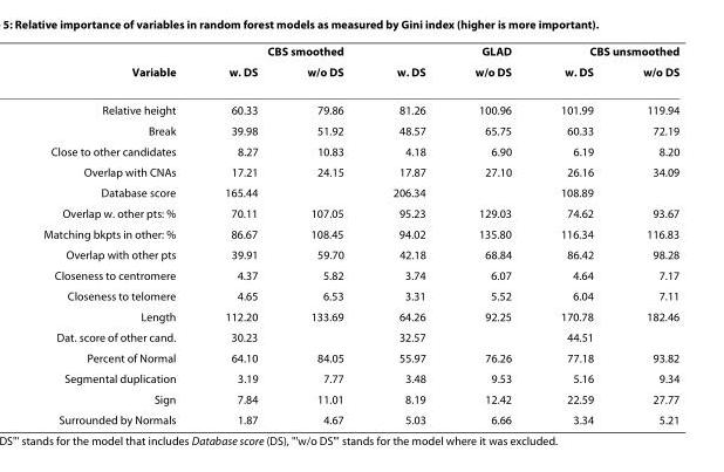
<table><thead><tr><td rowspan="2">Variable</td><td colspan="2">CBS smoothed</td><td rowspan="2">w. DS</td><td rowspan="2">GLAD w/o DS</td><td colspan="2">CBS unsmoothed</td></tr><tr><td>w. DS</td><td>w/o DS</td><td>w. DS</td><td>w/o DS</td></tr></thead><tbody><tr><td>Relative height</td><td>60.33</td><td>79.86</td><td>81.26</td><td>100.96</td><td>101.99</td><td>119.94</td></tr><tr><td>Break</td><td>39.98</td><td>51.92</td><td>48.57</td><td>65.75</td><td>60.33</td><td>72.19</td></tr><tr><td>Close to other candidates</td><td>8.27</td><td>10.83</td><td>4.18</td><td>6.90</td><td>6.19</td><td>8.20</td></tr><tr><td>Overlap with CNAs</td><td>17.21</td><td>24.15</td><td>17.87</td><td>27.10</td><td>26.16</td><td>34.09</td></tr><tr><td>Database score</td><td>165.44</td><td></td><td>206.34</td><td></td><td>108.89</td><td></td></tr><tr><td>Overlap w. other pts: %</td><td>70.11</td><td>107.05</td><td>95.23</td><td>129.03</td><td>74.62</td><td>93.67</td></tr><tr><td>Matching bkpts in other: %</td><td>86.67</td><td>108.45</td><td>94.02</td><td>135.80</td><td>116.34</td><td>116.83</td></tr><tr><td>Overlap with other pts</td><td>39.91</td><td>59.70</td><td>42.18</td><td>68.84</td><td>86.42</td><td>98.28</td></tr><tr><td>Closeness to centromere</td><td>4.37</td><td>5.82</td><td>3.74</td><td>6.07</td><td>4.64</td><td>7.17</td></tr><tr><td>Closeness to telomere</td><td>4.65</td><td>6.53</td><td>3.31</td><td>5.52</td><td>6.04</td><td>7.11</td></tr><tr><td>Length</td><td>112.20</td><td>133.69</td><td>64.26</td><td>92.25</td><td>170.78</td><td>182.46</td></tr><tr><td>Dat. score of other cand.</td><td>30.23</td><td></td><td>32.57</td><td></td><td>44.51</td><td></td></tr><tr><td>Percent of Normal</td><td>64.10</td><td>84.05</td><td>55.97</td><td>76.26</td><td>77.18</td><td>93.82</td></tr><tr><td>Segmental duplication</td><td>3.19</td><td>7.77</td><td>3.48</td><td>9.53</td><td>5.16</td><td>9.34</td></tr><tr><td>Sign</td><td>7.84</td><td>11.01</td><td>8.19</td><td>12.42</td><td>22.59</td><td>27.77</td></tr><tr><td>Surrounded by Normals</td><td>1.87</td><td>4.67</td><td>5.03</td><td>6.66</td><td>3.34</td><td>5.21</td></tr></tbody></table>